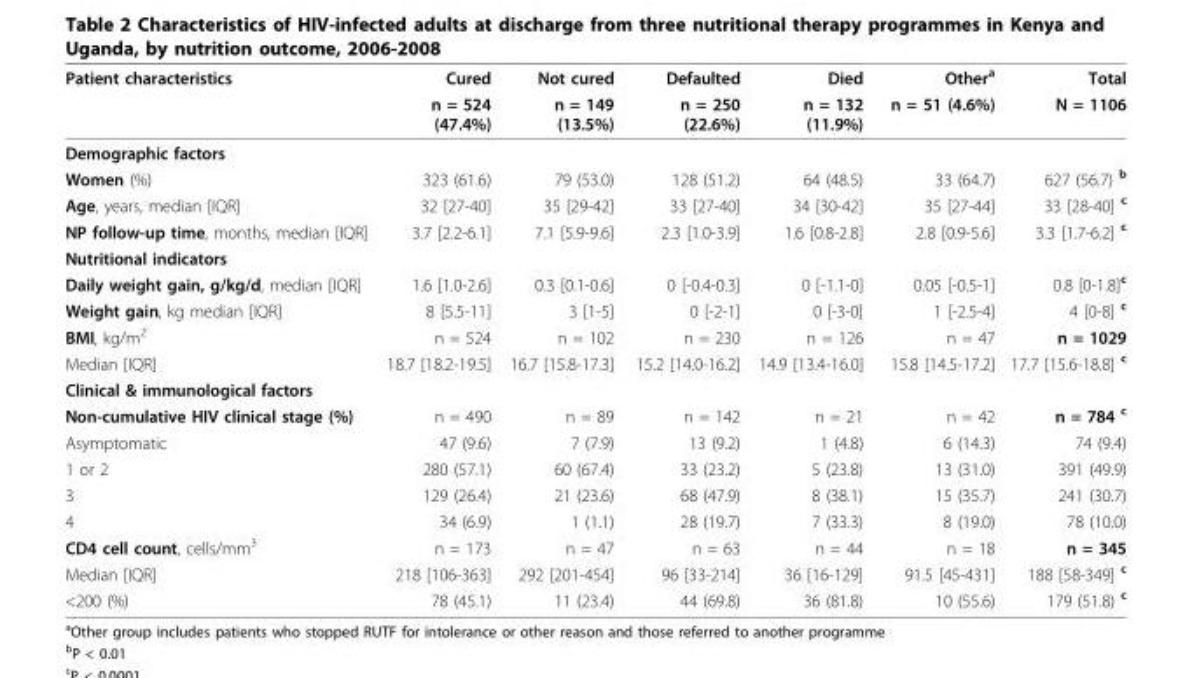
<table><thead><tr><td>Patient characteristics</td><td>Cured</td><td>Not cured</td><td>Defaulted</td><td>Died</td><td>Other<sup>a</sup></td><td>Total</td></tr></thead><tbody><tr><td></td><td>n = 524 (47.4%)</td><td>n = 149 (13.5%)</td><td>n = 250 (22.6%)</td><td>n = 132 (11.9%)</td><td>n = 51 (4.6%)</td><td>N = 1106</td></tr><tr><td colspan="7">Demographic factors</td></tr><tr><td>Women (%)</td><td>323 (61.6)</td><td>79 (53.0)</td><td>128 (51.2)</td><td>64 (48.5)</td><td>33 (64.7)</td><td>627 (56.7) <sup>b</sup></td></tr><tr><td>Age, years, median [IQR]</td><td>32 [27-40]</td><td>35 [29-42]</td><td>33 [27-40]</td><td>34 [30-42]</td><td>35 [27-44]</td><td>33 [28-40] <sup>c</sup></td></tr><tr><td>NP follow-up time, months, median [IQR]</td><td>3.7 [2.2-6.1]</td><td>7.1 [5.9-9.6]</td><td>2.3 [1.0-3.9]</td><td>1.6 [0.8-2.8]</td><td>2.8 [0.9-5.6]</td><td>3.3 [1.7-6.2] <sup>c</sup></td></tr><tr><td colspan="7">Nutritional indicators</td></tr><tr><td>Daily weight gain, g/kg/d, median [IQR]</td><td>1.6 [1.0-2.6]</td><td>0.3 [0.1-0.6]</td><td>0 [-0.4-0.3]</td><td>0 [-1.1-0]</td><td>0.05 [-0.5-1]</td><td>0.8 [0-1.8]<sup>c</sup></td></tr><tr><td>Weight gain, kg median [IQR]</td><td>8 [5.5-11]</td><td>3 [1-5]</td><td>0 [-2-1]</td><td>0 [-3-0]</td><td>1 [-2.5-4]</td><td>4 [0-8] <sup>c</sup></td></tr><tr><td>BMI, kg/m<sup>2</sup></td><td>n = 524</td><td>n = 102</td><td>n = 230</td><td>n = 126</td><td>n = 47</td><td>n = 1029</td></tr><tr><td>Median [IQR]</td><td>18.7 [18.2-19.5]</td><td>16.7 [15.8-17.3]</td><td>15.2 [14.0-16.2]</td><td>14.9 [13.4-16.0]</td><td>15.8 [14.5-17.2]</td><td>17.7 [15.6-18.8] <sup>c</sup></td></tr><tr><td colspan="7">Clinical &amp; immunological factors</td></tr><tr><td>Non-cumulative HIV clinical stage (%)</td><td>n = 490</td><td>n = 89</td><td>n = 142</td><td>n = 21</td><td>n = 42</td><td>n = 784 <sup>c</sup></td></tr><tr><td>Asymptomatic</td><td>47 (9.6)</td><td>7 (7.9)</td><td>13 (9.2)</td><td>1 (4.8)</td><td>6 (14.3)</td><td>74 (9.4)</td></tr><tr><td>1 or 2</td><td>280 (57.1)</td><td>60 (67.4)</td><td>33 (23.2)</td><td>5 (23.8)</td><td>13 (31.0)</td><td>391 (49.9)</td></tr><tr><td>3</td><td>129 (26.4)</td><td>21 (23.6)</td><td>68 (47.9)</td><td>8 (38.1)</td><td>15 (35.7)</td><td>241 (30.7)</td></tr><tr><td>4</td><td>34 (6.9)</td><td>1 (1.1)</td><td>28 (19.7)</td><td>7 (33.3)</td><td>8 (19.0)</td><td>78 (10.0)</td></tr><tr><td>CD4 cell count, cells/mm<sup>3</sup></td><td>n = 173</td><td>n = 47</td><td>n = 63</td><td>n = 44</td><td>n = 18</td><td>n = 345</td></tr><tr><td>Median [IQR]</td><td>218 [106-363]</td><td>292 [201-454]</td><td>96 [33-214]</td><td>36 [16-129]</td><td>91.5 [45-431]</td><td>188 [58-349] <sup>c</sup></td></tr><tr><td>&lt;200 (%)</td><td>78 (45.1)</td><td>11 (23.4)</td><td>44 (69.8)</td><td>36 (81.8)</td><td>10 (55.6)</td><td>179 (51.8) <sup>c</sup></td></tr></tbody></table>